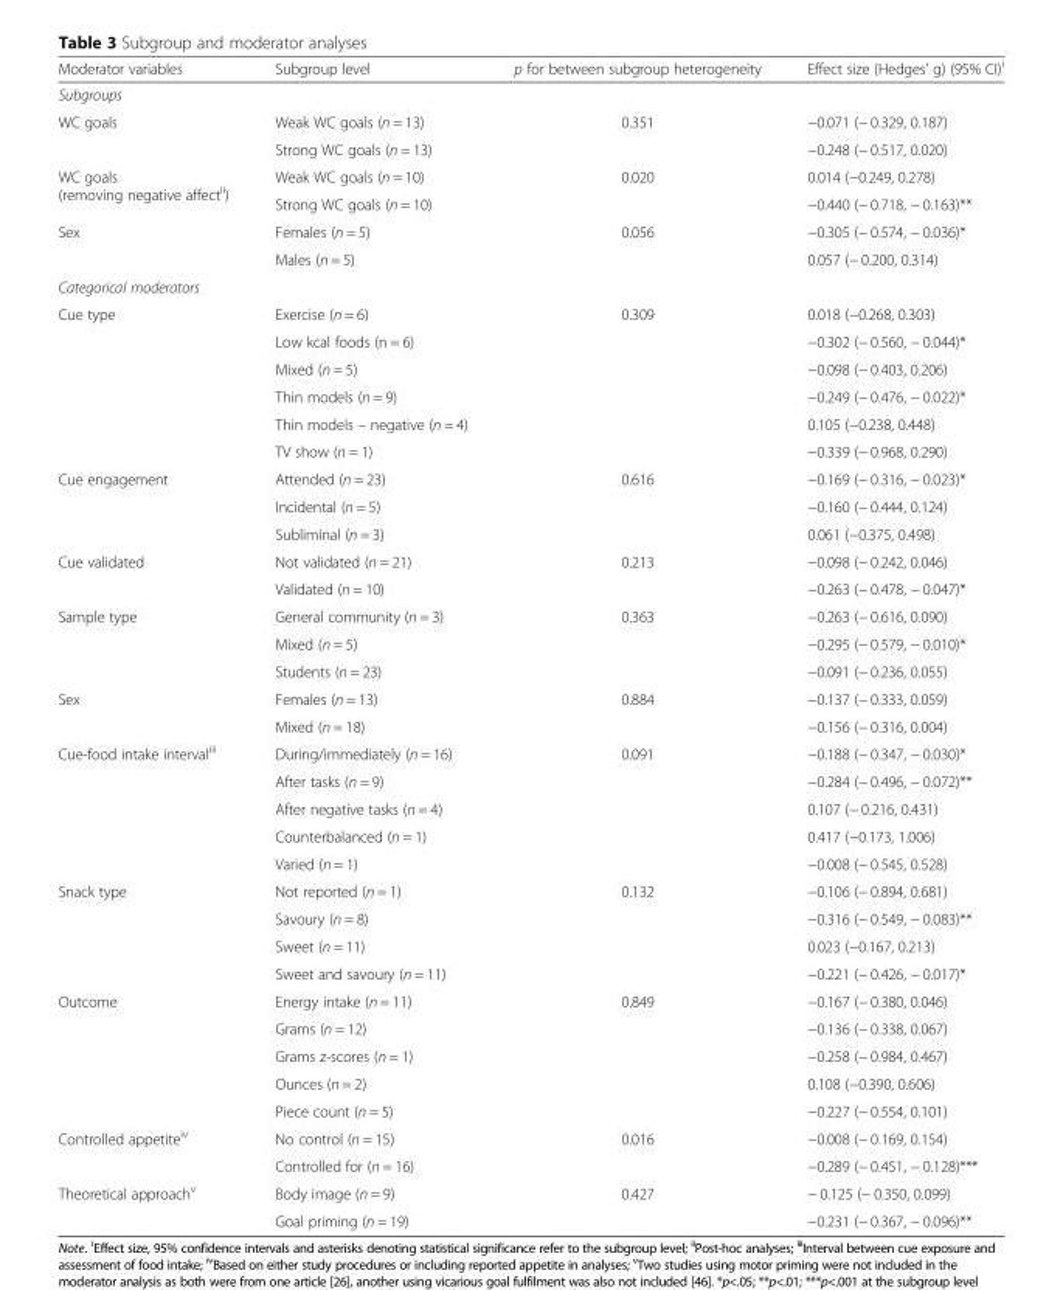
<table><thead><tr><td>Moderator variables</td><td>Subgroup level</td><td>p for between subgroup heterogeneity</td><td>Effect size (Hedges’ g) (95% CI)<sup>i</sup></td></tr></thead><tbody><tr><td colspan="4">Subgroups</td></tr><tr><td rowspan="2">WC goals</td><td>Weak WC goals (n = 13)</td><td rowspan="2">0.351</td><td>−0.071 (− 0.329, 0.187)</td></tr><tr><td>Strong WC goals (n = 13)</td><td>−0.248 (− 0.517, 0.020)</td></tr><tr><td rowspan="2">WC goals (removing negative affect<sup>ii</sup>)</td><td>Weak WC goals (n = 10)</td><td rowspan="2">0.020</td><td>0.014 (−0.249, 0.278)</td></tr><tr><td>Strong WC goals (n = 10)</td><td>−0.440 (− 0.718, − 0.163)**</td></tr><tr><td rowspan="2">Sex</td><td>Females (n = 5)</td><td rowspan="2">0.056</td><td>−0.305 (− 0.574, − 0.036)*</td></tr><tr><td>Males (n = 5)</td><td>0.057 (− 0.200, 0.314)</td></tr><tr><td colspan="4">Categorical moderators</td></tr><tr><td rowspan="6">Cue type</td><td>Exercise (n = 6)</td><td rowspan="6">0.309</td><td>0.018 (−0.268, 0.303)</td></tr><tr><td>Low kcal foods (n = 6)</td><td>−0.302 (− 0.560, − 0.044)*</td></tr><tr><td>Mixed (n = 5)</td><td>−0.098 (− 0.403, 0.206)</td></tr><tr><td>Thin models (n = 9)</td><td>−0.249 (− 0.476, − 0.022)*</td></tr><tr><td>Thin models – negative (n = 4)</td><td>0.105 (−0.238, 0.448)</td></tr><tr><td>TV show (n = 1)</td><td>−0.339 (− 0.968, 0.290)</td></tr><tr><td rowspan="3">Cue engagement</td><td>Attended (n = 23)</td><td rowspan="3">0.616</td><td>−0.169 (− 0.316, − 0.023)*</td></tr><tr><td>Incidental (n = 5)</td><td>−0.160 (− 0.444, 0.124)</td></tr><tr><td>Subliminal (n = 3)</td><td>0.061 (−0.375, 0.498)</td></tr><tr><td rowspan="2">Cue validated</td><td>Not validated (n = 21)</td><td rowspan="2">0.213</td><td>−0.098 (− 0.242, 0.046)</td></tr><tr><td>Validated (n = 10)</td><td>−0.263 (− 0.478, − 0.047)*</td></tr><tr><td rowspan="3">Sample type</td><td>General community (n = 3)</td><td rowspan="3">0.363</td><td>−0.263 (− 0.616, 0.090)</td></tr><tr><td>Mixed (n = 5)</td><td>−0.295 (− 0.579, − 0.010)*</td></tr><tr><td>Students (n = 23)</td><td>−0.091 (− 0.236, 0.055)</td></tr><tr><td rowspan="2">Sex</td><td>Females (n = 13)</td><td rowspan="2">0.884</td><td>−0.137 (− 0.333, 0.059)</td></tr><tr><td>Mixed (n = 18)</td><td>−0.156 (− 0.316, 0.004)</td></tr><tr><td rowspan="5">Cue-food intake interval<sup>iii</sup></td><td>During/immediately (n = 16)</td><td rowspan="5">0.091</td><td>−0.188 (− 0.347, − 0.030)*</td></tr><tr><td>After tasks (n = 9)</td><td>−0.284 (− 0.496, − 0.072)**</td></tr><tr><td>After negative tasks (n = 4)</td><td>0.107 (− 0.216, 0.431)</td></tr><tr><td>Counterbalanced (n = 1)</td><td>0.417 (−0.173, 1.006)</td></tr><tr><td>Varied (n = 1)</td><td>−0.008 (− 0.545, 0.528)</td></tr><tr><td rowspan="4">Snack type</td><td>Not reported (n = 1)</td><td rowspan="4">0.132</td><td>−0.106 (− 0.894, 0.681)</td></tr><tr><td>Savoury (n = 8)</td><td>−0.316 (− 0.549, − 0.083)**</td></tr><tr><td>Sweet (n = 11)</td><td>0.023 (−0.167, 0.213)</td></tr><tr><td>Sweet and savoury (n = 11)</td><td>−0.221 (− 0.426, − 0.017)*</td></tr><tr><td rowspan="5">Outcome</td><td>Energy intake (n = 11)</td><td rowspan="5">0.849</td><td>−0.167 (− 0.380, 0.046)</td></tr><tr><td>Grams (n = 12)</td><td>−0.136 (− 0.338, 0.067)</td></tr><tr><td>Grams z-scores (n = 1)</td><td>−0.258 (− 0.984, 0.467)</td></tr><tr><td>Ounces (n = 2)</td><td>0.108 (−0.390, 0.606)</td></tr><tr><td>Piece count (n = 5)</td><td>−0.227 (− 0.554, 0.101)</td></tr><tr><td rowspan="2">Controlled appetite<sup>iv</sup></td><td>No control (n = 15)</td><td rowspan="2">0.016</td><td>−0.008 (− 0.169, 0.154)</td></tr><tr><td>Controlled for (n = 16)</td><td>−0.289 (− 0.451, − 0.128)***</td></tr><tr><td rowspan="2">Theoretical approach<sup>v</sup></td><td>Body image (n = 9)</td><td rowspan="2">0.427</td><td>− 0.125 (− 0.350, 0.099)</td></tr><tr><td>Goal priming (n = 19)</td><td>−0.231 (− 0.367, − 0.096)**</td></tr></tbody></table>